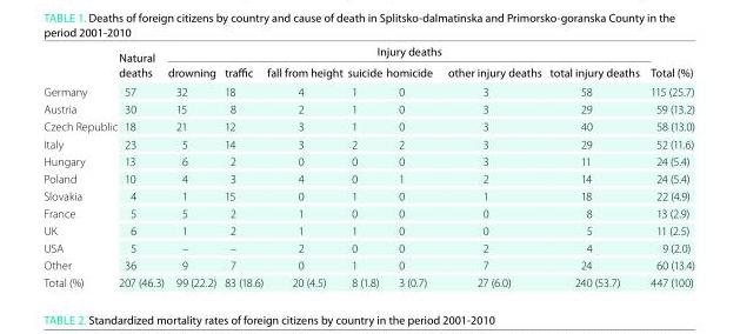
<table><thead><tr><td rowspan="2"></td><td rowspan="2">natural deaths</td><td colspan="7">injury deaths</td><td rowspan="2">total (%)</td></tr><tr><td>drowning</td><td>traffic</td><td>fall from height</td><td>suicide</td><td>homicide</td><td>other injury deaths</td><td>total injury deaths</td></tr></thead><tbody><tr><td>Germany</td><td>57</td><td>32</td><td>18</td><td>4</td><td>1</td><td>0</td><td>3</td><td>58</td><td>115 (25.7)</td></tr><tr><td>Austria</td><td>30</td><td>15</td><td>8</td><td>2</td><td>1</td><td>0</td><td>3</td><td>29</td><td>59 (13.2)</td></tr><tr><td>Czech Republic</td><td>18</td><td>21</td><td>12</td><td>3</td><td>1</td><td>0</td><td>3</td><td>40</td><td>58 (13.0)</td></tr><tr><td>Italy</td><td>23</td><td>5</td><td>14</td><td>3</td><td>2</td><td>2</td><td>3</td><td>29</td><td>52 (11.6)</td></tr><tr><td>Hungary</td><td>13</td><td>6</td><td>2</td><td>0</td><td>0</td><td>0</td><td>3</td><td>11</td><td>24 (5.4)</td></tr><tr><td>Poland</td><td>10</td><td>4</td><td>3</td><td>4</td><td>0</td><td>1</td><td>2</td><td>14</td><td>24 (5.4)</td></tr><tr><td>Slovakia</td><td>4</td><td>1</td><td>15</td><td>0</td><td>1</td><td>0</td><td>1</td><td>18</td><td>22 (4.9)</td></tr><tr><td>France</td><td>5</td><td>5</td><td>2</td><td>1</td><td>0</td><td>0</td><td>0</td><td>8</td><td>13 (2.9)</td></tr><tr><td>UK</td><td>6</td><td>1</td><td>2</td><td>1</td><td>1</td><td>0</td><td>0</td><td>5</td><td>11 (2.5)</td></tr><tr><td>USA</td><td>5</td><td>–</td><td>–</td><td>2</td><td>0</td><td>0</td><td>2</td><td>4</td><td>9 (2.0)</td></tr><tr><td>Other</td><td>36</td><td>9</td><td>7</td><td>0</td><td>1</td><td>0</td><td>7</td><td>24</td><td>60 (13.4)</td></tr><tr><td>Total (%)</td><td>207 (46.3)</td><td>99 (22.2)</td><td>83 (18.6)</td><td>20 (4.5)</td><td>8 (1.8)</td><td>3 (0.7)</td><td>27 (6.0)</td><td>240 (53.7)</td><td>447 (100)</td></tr></tbody></table>